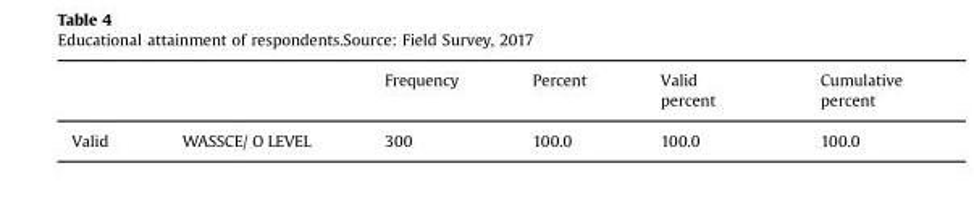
<table><thead><tr><td></td><td></td><td>Frequency</td><td>Percent</td><td>Valid percent</td><td>Cumulative percent</td></tr></thead><tbody><tr><td>Valid</td><td>WASSCE/ O LEVEL</td><td>300</td><td>100.0</td><td>100.0</td><td>100.0</td></tr></tbody></table>